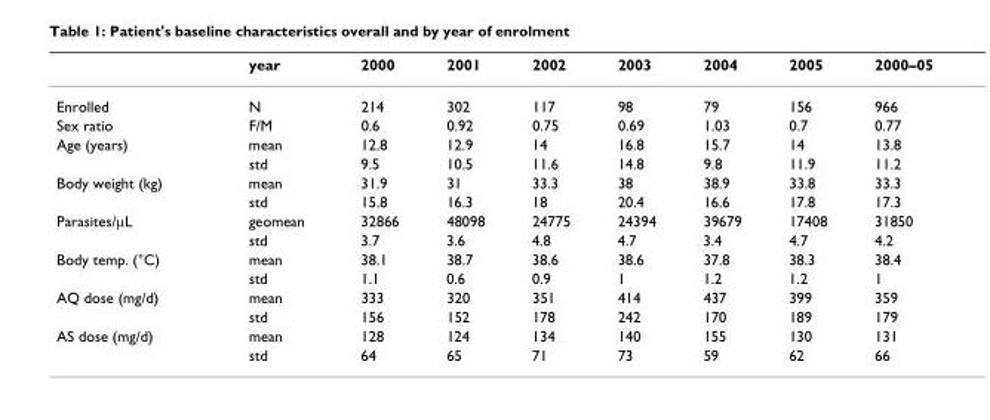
<table><thead><tr><td></td><td>year</td><td>2000</td><td>2001</td><td>2002</td><td>2003</td><td>2004</td><td>2005</td><td>2000–05</td></tr></thead><tbody><tr><td>Enrolled</td><td>N</td><td>214</td><td>302</td><td>117</td><td>98</td><td>79</td><td>156</td><td>966</td></tr><tr><td>Sex ratio</td><td>F/M</td><td>0.6</td><td>0.92</td><td>0.75</td><td>0.69</td><td>1.03</td><td>0.7</td><td>0.77</td></tr><tr><td rowspan="2">Age (years)</td><td>mean</td><td>12.8</td><td>12.9</td><td>14</td><td>16.8</td><td>15.7</td><td>14</td><td>13.8</td></tr><tr><td>std</td><td>9.5</td><td>10.5</td><td>11.6</td><td>14.8</td><td>9.8</td><td>11.9</td><td>11.2</td></tr><tr><td rowspan="2">Body weight (kg)</td><td>mean</td><td>31.9</td><td>31</td><td>33.3</td><td>38</td><td>38.9</td><td>33.8</td><td>33.3</td></tr><tr><td>std</td><td>15.8</td><td>16.3</td><td>18</td><td>20.4</td><td>16.6</td><td>17.8</td><td>17.3</td></tr><tr><td rowspan="2">Parasites/µL</td><td>geomean</td><td>32866</td><td>48098</td><td>24775</td><td>24394</td><td>39679</td><td>17408</td><td>31850</td></tr><tr><td>std</td><td>3.7</td><td>3.6</td><td>4.8</td><td>4.7</td><td>3.4</td><td>4.7</td><td>4.2</td></tr><tr><td rowspan="2">Body temp. (°C)</td><td>mean</td><td>38.1</td><td>38.7</td><td>38.6</td><td>38.6</td><td>37.8</td><td>38.3</td><td>38.4</td></tr><tr><td>std</td><td>1.1</td><td>0.6</td><td>0.9</td><td>1</td><td>1.2</td><td>1.2</td><td>1</td></tr><tr><td rowspan="2">AQ dose (mg/d)</td><td>mean</td><td>333</td><td>320</td><td>351</td><td>414</td><td>437</td><td>399</td><td>359</td></tr><tr><td>std</td><td>156</td><td>152</td><td>178</td><td>242</td><td>170</td><td>189</td><td>179</td></tr><tr><td rowspan="2">AS dose (mg/d)</td><td>mean</td><td>128</td><td>124</td><td>134</td><td>140</td><td>155</td><td>130</td><td>131</td></tr><tr><td>std</td><td>64</td><td>65</td><td>71</td><td>73</td><td>59</td><td>62</td><td>66</td></tr></tbody></table>